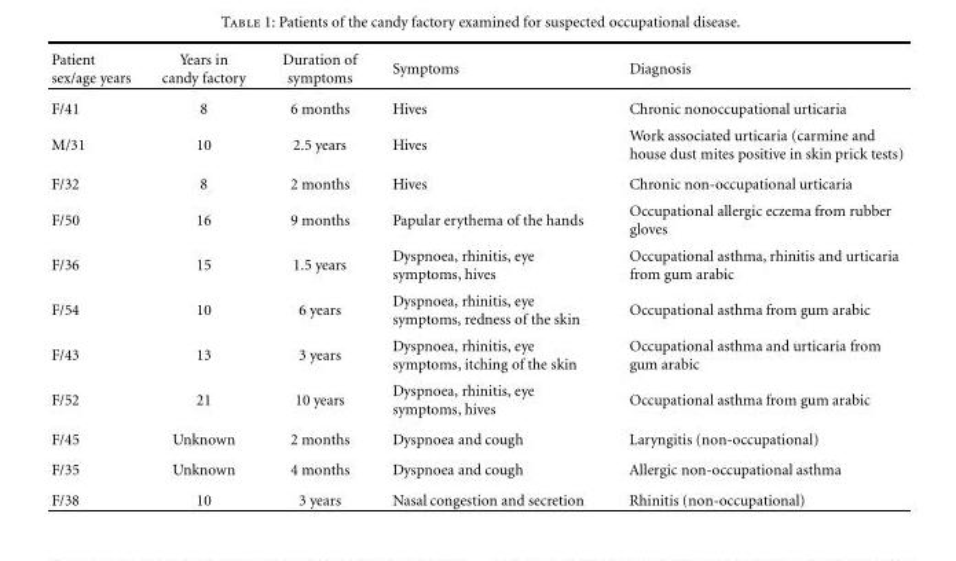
<table><thead><tr><td>Patient sex/age years</td><td>Years in candy factory</td><td>Duration of symptoms</td><td>Symptoms</td><td>Diagnosis</td></tr></thead><tbody><tr><td>F/41</td><td>8</td><td>6 months</td><td>Hives</td><td>Chronic nonoccupational urticaria</td></tr><tr><td>M/31</td><td>10</td><td>2.5 years</td><td>Hives</td><td>Work associated urticaria (carmine and house dust mites positive in skin prick tests)</td></tr><tr><td>F/32</td><td>8</td><td>2 months</td><td>Hives</td><td>Chronic non-occupational urticaria</td></tr><tr><td>F/50</td><td>16</td><td>9 months</td><td>Papular erythema of the hands</td><td>Occupational allergic eczema from rubber gloves</td></tr><tr><td>F/36</td><td>15</td><td>1.5 years</td><td>Dyspnoea, rhinitis, eye symptoms, hives</td><td>Occupational asthma, rhinitis and urticaria from gum arabic</td></tr><tr><td>F/54</td><td>10</td><td>6 years</td><td>Dyspnoea, rhinitis, eye symptoms, redness of the skin</td><td>Occupational asthma from gum arabic</td></tr><tr><td>F/43</td><td>13</td><td>3 years</td><td>Dyspnoea, rhinitis, eye symptoms, itching of the skin</td><td>Occupational asthma and urticaria from gum arabic</td></tr><tr><td>F/52</td><td>21</td><td>10 years</td><td>Dyspnoea, rhinitis, eye symptoms, hives</td><td>Occupational asthma from gum arabic</td></tr><tr><td>F/45</td><td>Unknown</td><td>2 months</td><td>Dyspnoea and cough</td><td>Laryngitis (non-occupational)</td></tr><tr><td>F/35</td><td>Unknown</td><td>4 months</td><td>Dyspnoea and cough</td><td>Allergic non-occupational asthma</td></tr><tr><td>F/38</td><td>10</td><td>3 years</td><td>Nasal congestion and secretion</td><td>Rhinitis (non-occupational)</td></tr></tbody></table>